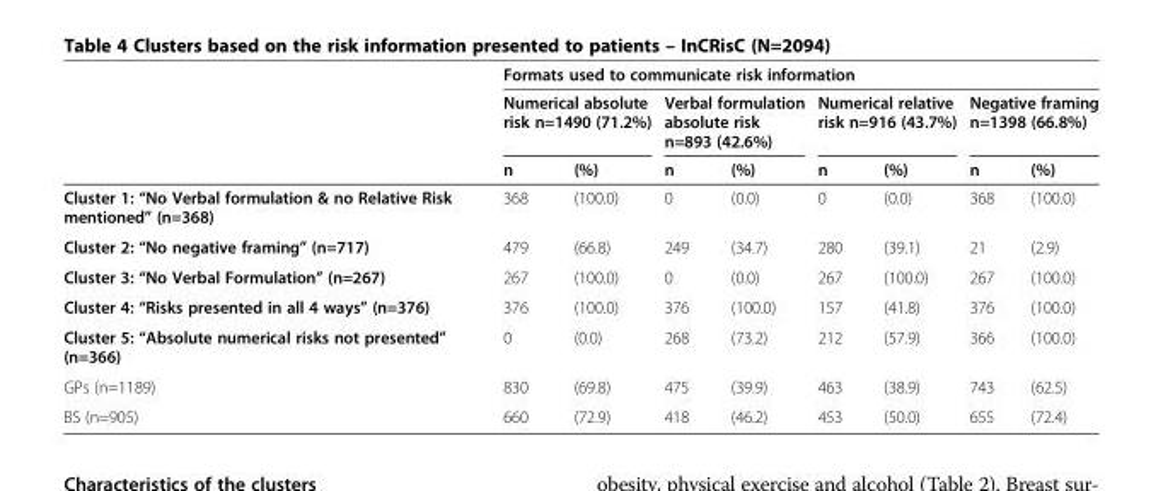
<table><thead><tr><td rowspan="3"></td><td colspan="8">Formats used to communicate risk information</td></tr><tr><td colspan="2">Numerical absolute risk n=1490 (71.2%)</td><td colspan="2">Verbal formulation absolute risk n=893 (42.6%)</td><td colspan="2">Numerical relative risk n=916 (43.7%)</td><td colspan="2">Negative framing n=1398 (66.8%)</td></tr><tr><td>n</td><td>(%)</td><td>n</td><td>(%)</td><td>n</td><td>(%)</td><td>n</td><td>(%)</td></tr></thead><tbody><tr><td>Cluster 1: “No Verbal formulation &amp; no Relative Risk mentioned” (n=368)</td><td>368</td><td>(100.0)</td><td>0</td><td>(0.0)</td><td>0</td><td>(0.0)</td><td>368</td><td>(100.0)</td></tr><tr><td>Cluster 2: “No negative framing” (n=717)</td><td>479</td><td>(66.8)</td><td>249</td><td>(34.7)</td><td>280</td><td>(39.1)</td><td>21</td><td>(2.9)</td></tr><tr><td>Cluster 3: “No Verbal Formulation” (n=267)</td><td>267</td><td>(100.0)</td><td>0</td><td>(0.0)</td><td>267</td><td>(100.0)</td><td>267</td><td>(100.0)</td></tr><tr><td>Cluster 4: “Risks presented in all 4 ways” (n=376)</td><td>376</td><td>(100.0)</td><td>376</td><td>(100.0)</td><td>157</td><td>(41.8)</td><td>376</td><td>(100.0)</td></tr><tr><td>Cluster 5: “Absolute numerical risks not presented” (n=366)</td><td>0</td><td>(0.0)</td><td>268</td><td>(73.2)</td><td>212</td><td>(57.9)</td><td>366</td><td>(100.0)</td></tr><tr><td>GPs (n=1189)</td><td>830</td><td>(69.8)</td><td>475</td><td>(39.9)</td><td>463</td><td>(38.9)</td><td>743</td><td>(62.5)</td></tr><tr><td>BS (n=905)</td><td>660</td><td>(72.9)</td><td>418</td><td>(46.2)</td><td>453</td><td>(50.0)</td><td>655</td><td>(72.4)</td></tr></tbody></table>